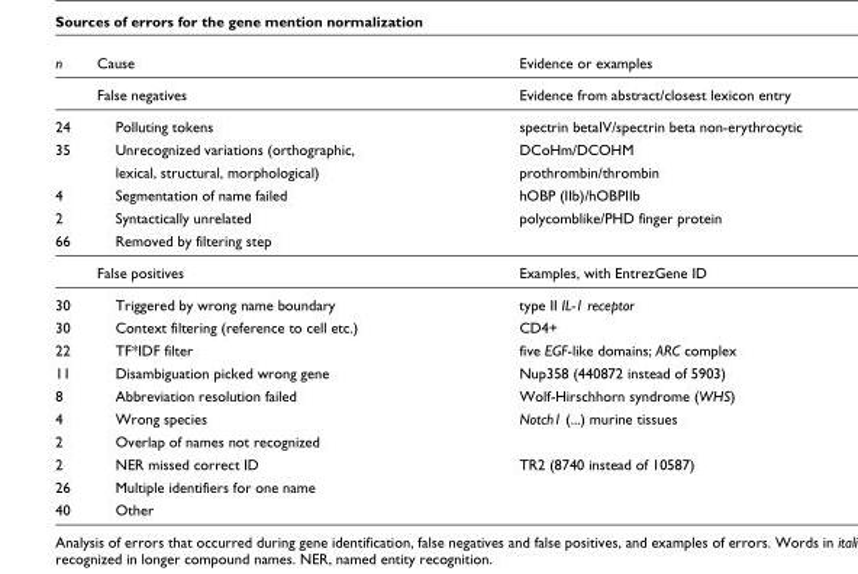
<table><thead><tr><td>n</td><td>Cause</td><td>Evidence or examples</td></tr></thead><tbody><tr><td></td><td>False negatives</td><td>Evidence from abstract/closest lexicon entry</td></tr><tr><td>24</td><td>Polluting tokens</td><td>spectrin betaIV/spectrin beta non-erythrocytic</td></tr><tr><td rowspan="2">35</td><td>Unrecognized variations (orthographic,</td><td>DCoHm/DCOHM</td></tr><tr><td>lexical, structural, morphological)</td><td>prothrombin/thrombin</td></tr><tr><td>4</td><td>Segmentation of name failed</td><td>hOBP (IIb)/hOBPIIb</td></tr><tr><td>2</td><td>Syntactically unrelated</td><td>polycomblike/PHD finger protein</td></tr><tr><td rowspan="2">66</td><td>Removed by filtering step</td><td></td></tr><tr><td>False positives</td><td>Examples, with EntrezGene ID</td></tr><tr><td>30</td><td>Triggered by wrong name boundary</td><td>type II IL-1 receptor</td></tr><tr><td>30</td><td>Context filtering (reference to cell etc.)</td><td>CD4+</td></tr><tr><td>22</td><td>TF*IDF filter</td><td>five EGF-like domains; ARC complex</td></tr><tr><td>11</td><td>Disambiguation picked wrong gene</td><td>Nup358 (440872 instead of 5903)</td></tr><tr><td>8</td><td>Abbreviation resolution failed</td><td>Wolf-Hirschhorn syndrome (WHS)</td></tr><tr><td>4</td><td>Wrong species</td><td>Notch1 (...) murine tissues</td></tr><tr><td>2</td><td>Overlap of names not recognized</td><td></td></tr><tr><td>2</td><td>NER missed correct ID</td><td>TR2 (8740 instead of 10587)</td></tr><tr><td>26</td><td>Multiple identifiers for one name</td><td></td></tr><tr><td>40</td><td>Other</td><td></td></tr></tbody></table>